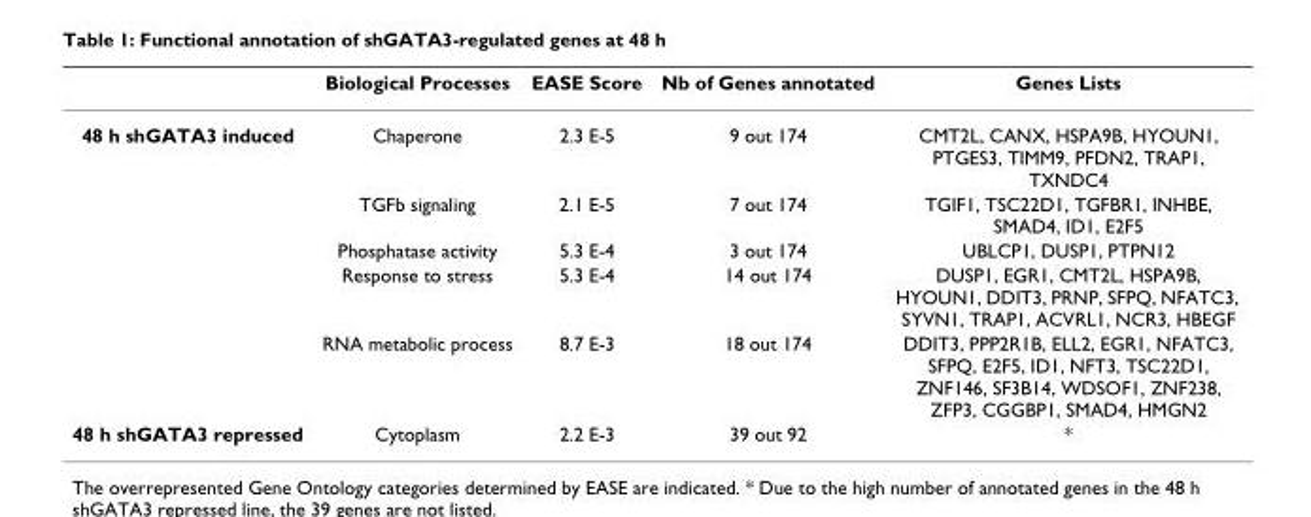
<table><thead><tr><td></td><td>Biological Processes</td><td>EASE Score</td><td>Nb of Genes annotated</td><td>Genes Lists</td></tr></thead><tbody><tr><td rowspan="5">48 h shGATA3 induced</td><td>Chaperone</td><td>2.3 E-5</td><td>9 out 174</td><td>CMT2L, CANX, HSPA9B, HYOUN1, PTGES3, TIMM9, PFDN2, TRAP1, TXNDC4</td></tr><tr><td>TGFb signaling</td><td>2.1 E-5</td><td>7 out 174</td><td>TGIF1, TSC22D1, TGFBR1, INHBE, SMAD4, ID1, E2F5</td></tr><tr><td>Phosphatase activity</td><td>5.3 E-4</td><td>3 out 174</td><td>UBLCP1, DUSP1, PTPN12</td></tr><tr><td>Response to stress</td><td>5.3 E-4</td><td>14 out 174</td><td>DUSP1, EGR1, CMT2L, HSPA9B, HYOUN1, DDIT3, PRNP, SFPQ, NFATC3, SYVN1, TRAP1, ACVRL1, NCR3, HBEGF</td></tr><tr><td>RNA metabolic process</td><td>8.7 E-3</td><td>18 out 174</td><td>DDIT3, PPP2R1B, ELL2, EGR1, NFATC3, SFPQ, E2F5, ID1, NFT3, TSC22D1, ZNF146, SF3B14, WDSOF1, ZNF238, ZFP3, CGGBP1, SMAD4, HMGN2</td></tr><tr><td>48 h shGATA3 repressed</td><td>Cytoplasm</td><td>2.2 E-3</td><td>39 out 92</td><td>*</td></tr></tbody></table>